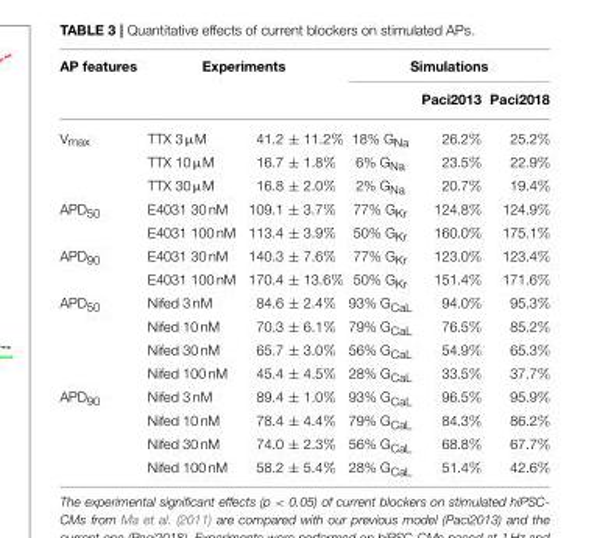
<table><thead><tr><td rowspan="2">AP features</td><td colspan="2">Experiments</td><td colspan="3">Simulations</td></tr><tr><td></td><td></td><td></td><td>Paci2013</td><td>Paci2018</td></tr></thead><tbody><tr><td rowspan="3">V<sub>max</sub></td><td>TTX 3 µM</td><td>41.2 ± 11.2%</td><td>18% G<sub>Na</sub></td><td>26.2%</td><td>25.2%</td></tr><tr><td>TTX 10 µM</td><td>16.7 ± 1.8%</td><td>6% G<sub>Na</sub></td><td>23.5%</td><td>22.9%</td></tr><tr><td>TTX 30 µM</td><td>16.8 ± 2.0%</td><td>2% G<sub>Na</sub></td><td>20.7%</td><td>19.4%</td></tr><tr><td rowspan="2">APD<sub>50</sub></td><td>E4031 30 nM</td><td>109.1 ± 3.7%</td><td>77% G<sub>Kr</sub></td><td>124.8%</td><td>124.9%</td></tr><tr><td>E4031 100 nM</td><td>113.4 ± 3.9%</td><td>50% G<sub>Kr</sub></td><td>160.0%</td><td>175.1%</td></tr><tr><td rowspan="2">APD<sub>90</sub></td><td>E4031 30 nM</td><td>140.3 ± 7.6%</td><td>77% G<sub>Kr</sub></td><td>123.0%</td><td>123.4%</td></tr><tr><td>E4031 100 nM</td><td>170.4 ± 13.6%</td><td>50% G<sub>Kr</sub></td><td>151.4%</td><td>171.6%</td></tr><tr><td rowspan="4">APD<sub>50</sub></td><td>Nifed 3 nM</td><td>84.6 ± 2.4%</td><td>93% G<sub>CaL</sub></td><td>94.0%</td><td>95.3%</td></tr><tr><td>Nifed 10 nM</td><td>70.3 ± 6.1%</td><td>79% G<sub>CaL</sub></td><td>76.5%</td><td>85.2%</td></tr><tr><td>Nifed 30 nM</td><td>65.7 ± 3.0%</td><td>56% G<sub>CaL</sub></td><td>54.9%</td><td>65.3%</td></tr><tr><td>Nifed 100 nM</td><td>45.4 ± 4.5%</td><td>28% G<sub>CaL</sub></td><td>33.5%</td><td>37.7%</td></tr><tr><td rowspan="4">APD<sub>90</sub></td><td>Nifed 3 nM</td><td>89.4 ± 1.0%</td><td>93% G<sub>CaL</sub></td><td>96.5%</td><td>95.9%</td></tr><tr><td>Nifed 10 nM</td><td>78.4 ± 4.4%</td><td>79% G<sub>CaL</sub></td><td>84.3%</td><td>86.2%</td></tr><tr><td>Nifed 30 nM</td><td>74.0 ± 2.3%</td><td>56% G<sub>CaL</sub></td><td>68.8%</td><td>67.7%</td></tr><tr><td>Nifed 100 nM</td><td>58.2 ± 5.4%</td><td>28% G<sub>CaL</sub></td><td>51.4%</td><td>42.6%</td></tr></tbody></table>